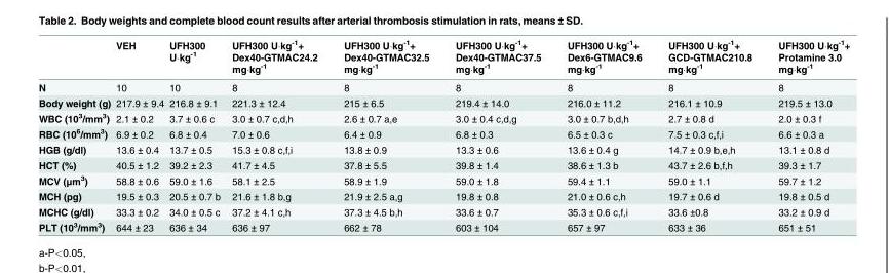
<table><thead><tr><td></td><td>VEH</td><td>UFH300 U·kg<sup>-1</sup></td><td>UFH300 U·kg<sup>-1</sup>+ Dex40-GTMAC24.2 mg·kg<sup>-1</sup></td><td>UFH300 U·kg<sup>-1</sup>+ Dex40-GTMAC32.5 mg·kg<sup>-1</sup></td><td>UFH300 U·kg<sup>-1</sup>+ Dex40-GTMAC37.5 mg·kg<sup>-1</sup></td><td>UFH300 U·kg<sup>-1</sup>+ Dex6-GTMAC9.6 mg·kg<sup>-1</sup></td><td>UFH300 U·kg<sup>-1</sup>+ GCD-GTMAC210.8 mg·kg<sup>-1</sup></td><td>UFH300 U·kg<sup>-1</sup>+ Protamine 3.0 mg·kg<sup>-1</sup></td></tr></thead><tbody><tr><td>N</td><td>10</td><td>10</td><td>8</td><td>8</td><td>8</td><td>8</td><td>8</td><td>8</td></tr><tr><td>Body weight (g)</td><td>217.9 ± 9.4</td><td>216.8 ± 9.1</td><td>221.3 ± 12.4</td><td>215 ± 6.5</td><td>219.4 ± 14.0</td><td>216.0 ± 11.2</td><td>216.1 ± 10.9</td><td>219.5 ± 13.0</td></tr><tr><td>WBC (10<sup>3</sup>/mm<sup>3</sup>)</td><td>2.1 ± 0.2</td><td>3.7 ± 0.6 c</td><td>3.0 ± 0.7 c,d,h</td><td>2.6 ± 0.7 a,e</td><td>3.0 ± 0.4 c,d,g</td><td>3.0 ± 0.7 b,d,h</td><td>2.7 ± 0.8 d</td><td>2.0 ± 0.3 f</td></tr><tr><td>RBC (10<sup>6</sup>/mm<sup>3</sup>)</td><td>6.9 ± 0.2</td><td>6.8 ± 0.4</td><td>7.0 ± 0.6</td><td>6.4 ± 0.9</td><td>6.8 ± 0.3</td><td>6.5 ± 0.3 c</td><td>7.5 ± 0.3 c,f,i</td><td>6.6 ± 0.3 a</td></tr><tr><td>HGB (g/dl)</td><td>13.6 ± 0.4</td><td>13.7 ± 0.5</td><td>15.3 ± 0.8 c,f,i</td><td>13.8 ± 0.9</td><td>13.3 ± 0.6</td><td>13.6 ± 0.4 g</td><td>14.7 ± 0.9 b,e,h</td><td>13.1 ± 0.8 d</td></tr><tr><td>HCT (%)</td><td>40.5 ± 1.2</td><td>39.2 ± 2.3</td><td>41.7 ± 4.5</td><td>37.8 ± 5.5</td><td>39.8 ± 1.4</td><td>38.6 ± 1.3 b</td><td>43.7 ± 2.6 b,f,h</td><td>39.3 ± 1.7</td></tr><tr><td>MCV (μm<sup>3</sup>)</td><td>58.8 ± 0.6</td><td>59.0 ± 1.6</td><td>58.1 ± 2.5</td><td>58.9 ± 1.9</td><td>59.0 ± 1.8</td><td>59.4 ± 1.1</td><td>59.0 ± 1.1</td><td>59.7 ± 1.2</td></tr><tr><td>MCH (pg)</td><td>19.5 ± 0.3</td><td>20.5 ± 0.7 b</td><td>21.6 ± 1.8 b,g</td><td>21.9 ± 2.5 a,g</td><td>19.8 ± 0.8</td><td>21.0 ± 0.6 c,h</td><td>19.7 ± 0.6 d</td><td>19.8 ± 0.5 d</td></tr><tr><td>MCHC (g/dl)</td><td>33.3 ± 0.2</td><td>34.0 ± 0.5 c</td><td>37.2 ± 4.1 c,h</td><td>37.3 ± 4.5 b,h</td><td>33.6 ± 0.7</td><td>35.3 ± 0.6 c,f,i</td><td>33.6 ±0.8</td><td>33.2 ± 0.9 d</td></tr><tr><td>PLT (10<sup>3</sup>/mm<sup>3</sup>)</td><td>644 ± 23</td><td>636 ± 34</td><td>636 ± 97</td><td>662 ± 78</td><td>603 ± 104</td><td>657 ± 97</td><td>633 ± 36</td><td>651 ± 51</td></tr></tbody></table>